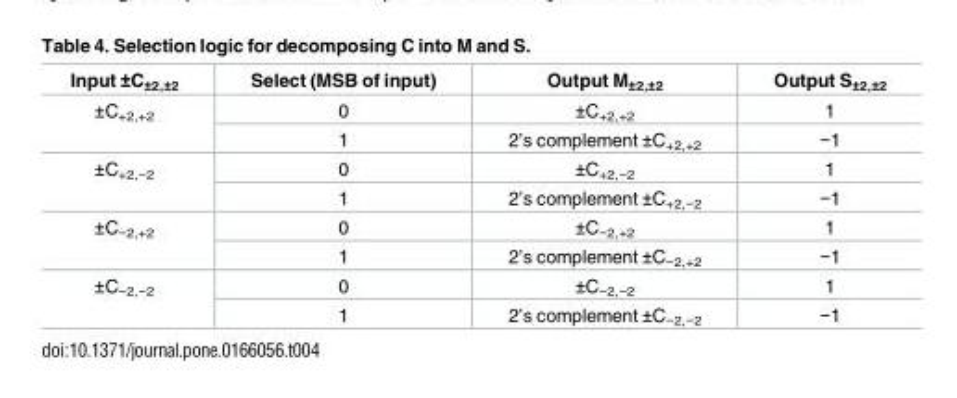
<table><thead><tr><td>Input ±C<sub>±2,±2</sub></td><td>Select (MSB of input)</td><td>Output M<sub>±2,±2</sub></td><td>Output S<sub>±2,±2</sub></td></tr></thead><tbody><tr><td rowspan="2">±C<sub>+2,+2</sub></td><td>0</td><td>±C<sub>+2,+2</sub></td><td>1</td></tr><tr><td>1</td><td>2’s complement ±C<sub>+2,+2</sub></td><td>−1</td></tr><tr><td rowspan="2">±C<sub>+2,−2</sub></td><td>0</td><td>±C<sub>+2,−2</sub></td><td>1</td></tr><tr><td>1</td><td>2’s complement ±C<sub>+2,−2</sub></td><td>−1</td></tr><tr><td rowspan="2">±C<sub>−2,+2</sub></td><td>0</td><td>±C<sub>−2,+2</sub></td><td>1</td></tr><tr><td>1</td><td>2’s complement ±C<sub>−2,+2</sub></td><td>−1</td></tr><tr><td rowspan="2">±C<sub>−2,−2</sub></td><td>0</td><td>±C<sub>−2,−2</sub></td><td>1</td></tr><tr><td>1</td><td>2’s complement ±C<sub>−2,−2</sub></td><td>−1</td></tr></tbody></table>